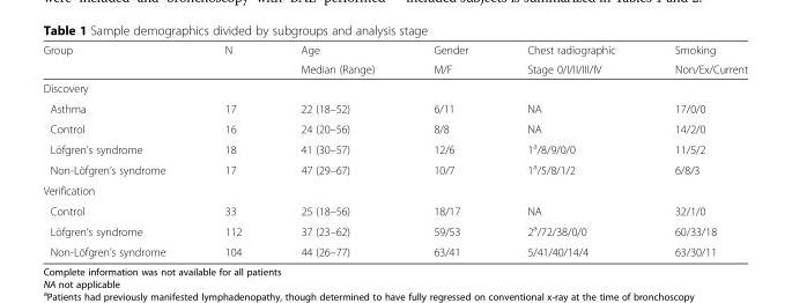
<table><thead><tr><td rowspan="2">Group</td><td rowspan="2">N</td><td rowspan="2">Age Median (Range)</td><td rowspan="2">Gender M/F</td><td rowspan="2">Chest radiographic Stage 0/I/II/III/IV</td><td rowspan="2">Smoking Non/Ex/Current</td></tr><tr></tr></thead><tbody><tr><td colspan="6">Discovery</td></tr><tr><td>Asthma</td><td>17</td><td>22 (18–52)</td><td>6/11</td><td>NA</td><td>17/0/0</td></tr><tr><td>Control</td><td>16</td><td>24 (20–56)</td><td>8/8</td><td>NA</td><td>14/2/0</td></tr><tr><td>Löfgren’s syndrome</td><td>18</td><td>41 (30–57)</td><td>12/6</td><td>1<sup>a</sup>/8/9/0/0</td><td>11/5/2</td></tr><tr><td>Non-Löfgren’s syndrome</td><td>17</td><td>47 (29–67)</td><td>10/7</td><td>1<sup>a</sup>/5/8/1/2</td><td>6/8/3</td></tr><tr><td colspan="6">Verification</td></tr><tr><td>Control</td><td>33</td><td>25 (18–56)</td><td>18/17</td><td>NA</td><td>32/1/0</td></tr><tr><td>Löfgren’s syndrome</td><td>112</td><td>37 (23–62)</td><td>59/53</td><td>2<sup>a</sup>/72/38/0/0</td><td>60/33/18</td></tr><tr><td>Non-Löfgren’s syndrome</td><td>104</td><td>44 (26–77)</td><td>63/41</td><td>5/41/40/14/4</td><td>63/30/11</td></tr></tbody></table>